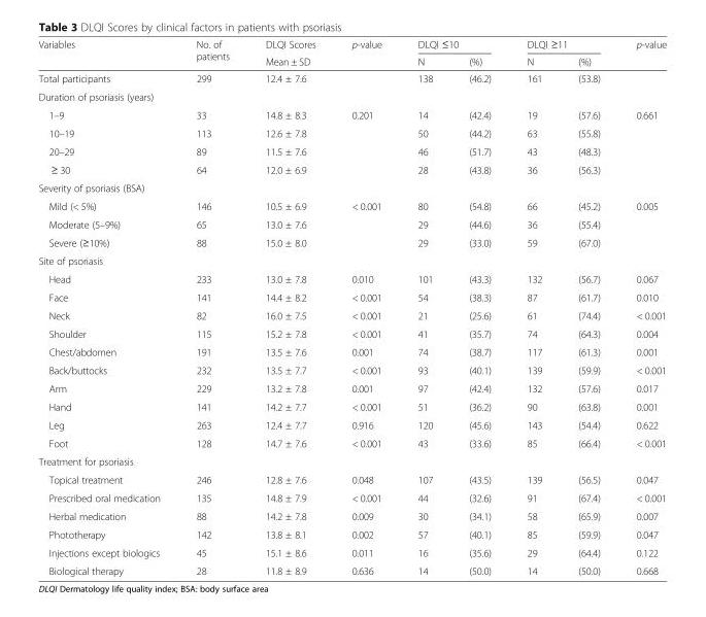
<table><thead><tr><td rowspan="2">Variables</td><td rowspan="2">No. of patients</td><td rowspan="2">DLQI Scores Mean ± SD</td><td rowspan="2">p-value</td><td colspan="2">DLQI ≤10</td><td colspan="2">DLQI ≥11</td><td rowspan="2">p-value</td></tr><tr><td>N</td><td>(%)</td><td>N</td><td>(%)</td></tr></thead><tbody><tr><td>Total participants</td><td>299</td><td>12.4 ± 7.6</td><td></td><td>138</td><td>(46.2)</td><td>161</td><td>(53.8)</td><td></td></tr><tr><td colspan="9">Duration of psoriasis (years)</td></tr><tr><td>1–9</td><td>33</td><td>14.8 ± 8.3</td><td>0.201</td><td>14</td><td>(42.4)</td><td>19</td><td>(57.6)</td><td>0.661</td></tr><tr><td>10–19</td><td>113</td><td>12.6 ± 7.8</td><td></td><td>50</td><td>(44.2)</td><td>63</td><td>(55.8)</td><td></td></tr><tr><td>20–29</td><td>89</td><td>11.5 ± 7.6</td><td></td><td>46</td><td>(51.7)</td><td>43</td><td>(48.3)</td><td></td></tr><tr><td>≥ 30</td><td>64</td><td>12.0 ± 6.9</td><td></td><td>28</td><td>(43.8)</td><td>36</td><td>(56.3)</td><td></td></tr><tr><td colspan="9">Severity of psoriasis (BSA)</td></tr><tr><td>Mild (&lt; 5%)</td><td>146</td><td>10.5 ± 6.9</td><td>&lt; 0.001</td><td>80</td><td>(54.8)</td><td>66</td><td>(45.2)</td><td>0.005</td></tr><tr><td>Moderate (5–9%)</td><td>65</td><td>13.0 ± 7.6</td><td></td><td>29</td><td>(44.6)</td><td>36</td><td>(55.4)</td><td></td></tr><tr><td>Severe (≥10%)</td><td>88</td><td>15.0 ± 8.0</td><td></td><td>29</td><td>(33.0)</td><td>59</td><td>(67.0)</td><td></td></tr><tr><td colspan="9">Site of psoriasis</td></tr><tr><td>Head</td><td>233</td><td>13.0 ± 7.8</td><td>0.010</td><td>101</td><td>(43.3)</td><td>132</td><td>(56.7)</td><td>0.067</td></tr><tr><td>Face</td><td>141</td><td>14.4 ± 8.2</td><td>&lt; 0.001</td><td>54</td><td>(38.3)</td><td>87</td><td>(61.7)</td><td>0.010</td></tr><tr><td>Neck</td><td>82</td><td>16.0 ± 7.5</td><td>&lt; 0.001</td><td>21</td><td>(25.6)</td><td>61</td><td>(74.4)</td><td>&lt; 0.001</td></tr><tr><td>Shoulder</td><td>115</td><td>15.2 ± 7.8</td><td>&lt; 0.001</td><td>41</td><td>(35.7)</td><td>74</td><td>(64.3)</td><td>0.004</td></tr><tr><td>Chest/abdomen</td><td>191</td><td>13.5 ± 7.6</td><td>0.001</td><td>74</td><td>(38.7)</td><td>117</td><td>(61.3)</td><td>0.001</td></tr><tr><td>Back/buttocks</td><td>232</td><td>13.5 ± 7.7</td><td>&lt; 0.001</td><td>93</td><td>(40.1)</td><td>139</td><td>(59.9)</td><td>&lt; 0.001</td></tr><tr><td>Arm</td><td>229</td><td>13.2 ± 7.8</td><td>0.001</td><td>97</td><td>(42.4)</td><td>132</td><td>(57.6)</td><td>0.017</td></tr><tr><td>Hand</td><td>141</td><td>14.2 ± 7.7</td><td>&lt; 0.001</td><td>51</td><td>(36.2)</td><td>90</td><td>(63.8)</td><td>0.001</td></tr><tr><td>Leg</td><td>263</td><td>12.4 ± 7.7</td><td>0.916</td><td>120</td><td>(45.6)</td><td>143</td><td>(54.4)</td><td>0.622</td></tr><tr><td>Foot</td><td>128</td><td>14.7 ± 7.6</td><td>&lt; 0.001</td><td>43</td><td>(33.6)</td><td>85</td><td>(66.4)</td><td>&lt; 0.001</td></tr><tr><td colspan="9">Treatment for psoriasis</td></tr><tr><td>Topical treatment</td><td>246</td><td>12.8 ± 7.6</td><td>0.048</td><td>107</td><td>(43.5)</td><td>139</td><td>(56.5)</td><td>0.047</td></tr><tr><td>Prescribed oral medication</td><td>135</td><td>14.8 ± 7.9</td><td>&lt; 0.001</td><td>44</td><td>(32.6)</td><td>91</td><td>(67.4)</td><td>&lt; 0.001</td></tr><tr><td>Herbal medication</td><td>88</td><td>14.2 ± 7.8</td><td>0.009</td><td>30</td><td>(34.1)</td><td>58</td><td>(65.9)</td><td>0.007</td></tr><tr><td>Phototherapy</td><td>142</td><td>13.8 ± 8.1</td><td>0.002</td><td>57</td><td>(40.1)</td><td>85</td><td>(59.9)</td><td>0.047</td></tr><tr><td>Injections except biologics</td><td>45</td><td>15.1 ± 8.6</td><td>0.011</td><td>16</td><td>(35.6)</td><td>29</td><td>(64.4)</td><td>0.122</td></tr><tr><td>Biological therapy</td><td>28</td><td>11.8 ± 8.9</td><td>0.636</td><td>14</td><td>(50.0)</td><td>14</td><td>(50.0)</td><td>0.668</td></tr></tbody></table>